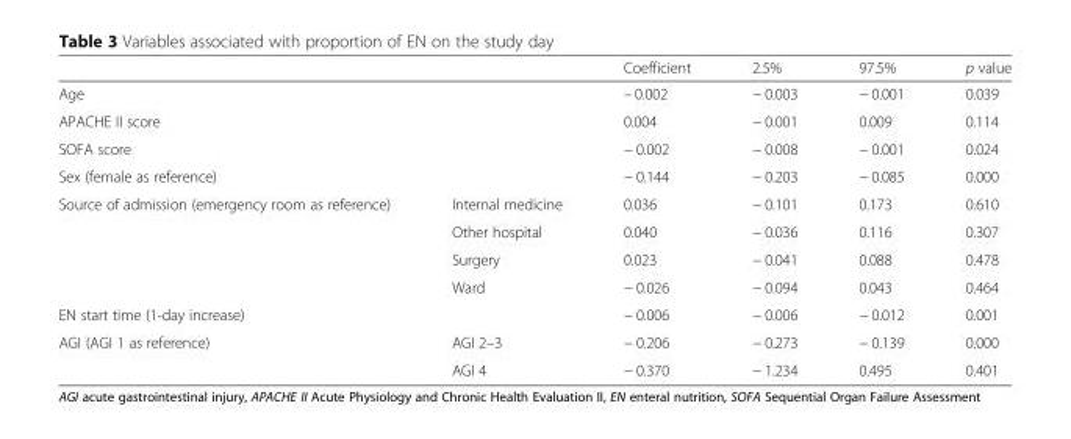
<table><thead><tr><td></td><td></td><td>Coefficient</td><td>2.5%</td><td>97.5%</td><td>p value</td></tr></thead><tbody><tr><td colspan="2">Age</td><td>– 0.002</td><td>− 0.003</td><td>− 0.001</td><td>0.039</td></tr><tr><td colspan="2">APACHE II score</td><td>0.004</td><td>− 0.001</td><td>0.009</td><td>0.114</td></tr><tr><td colspan="2">SOFA score</td><td>− 0.002</td><td>− 0.008</td><td>− 0.001</td><td>0.024</td></tr><tr><td colspan="2">Sex (female as reference)</td><td>− 0.144</td><td>− 0.203</td><td>− 0.085</td><td>0.000</td></tr><tr><td rowspan="4">Source of admission (emergency room as reference)</td><td>Internal medicine</td><td>0.036</td><td>− 0.101</td><td>0.173</td><td>0.610</td></tr><tr><td>Other hospital</td><td>0.040</td><td>− 0.036</td><td>0.116</td><td>0.307</td></tr><tr><td>Surgery</td><td>0.023</td><td>− 0.041</td><td>0.088</td><td>0.478</td></tr><tr><td>Ward</td><td>− 0.026</td><td>− 0.094</td><td>0.043</td><td>0.464</td></tr><tr><td colspan="2">EN start time (1-day increase)</td><td>− 0.006</td><td>− 0.006</td><td>− 0.012</td><td>0.001</td></tr><tr><td rowspan="2">AGI (AGI 1 as reference)</td><td>AGI 2–3</td><td>− 0.206</td><td>− 0.273</td><td>− 0.139</td><td>0.000</td></tr><tr><td>AGI 4</td><td>− 0.370</td><td>− 1.234</td><td>0.495</td><td>0.401</td></tr></tbody></table>